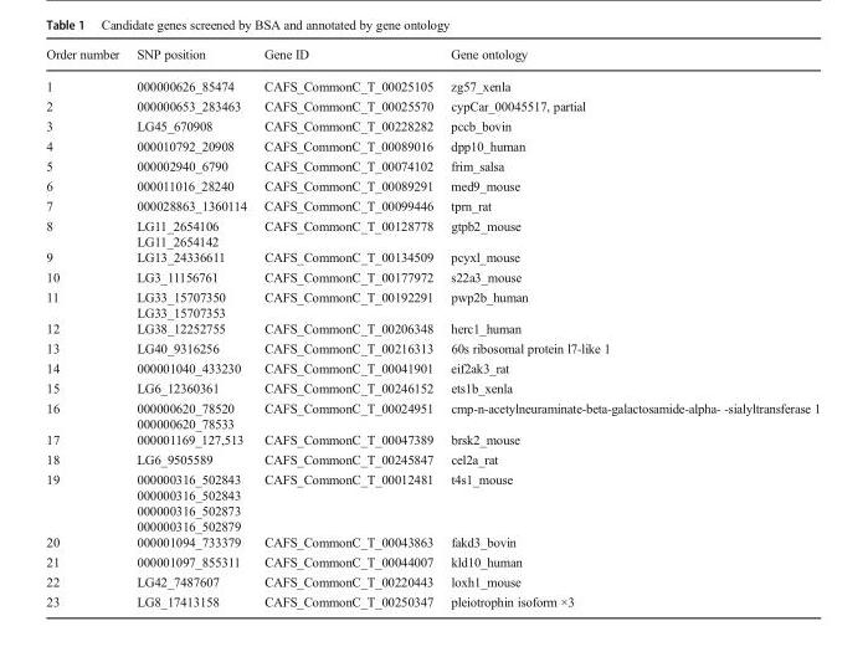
<table><thead><tr><td>Order number</td><td>SNP position</td><td>Gene ID</td><td>Gene ontology</td></tr></thead><tbody><tr><td>1</td><td>000000626_85474</td><td>CAFS_CommonC_T_00025105</td><td>zg57_xenla</td></tr><tr><td>2</td><td>000000653_283463</td><td>CAFS_CommonC_T_00025570</td><td>cypCar_00045517, partial</td></tr><tr><td>3</td><td>LG45_670908</td><td>CAFS_CommonC_T_00228282</td><td>pccb_bovin</td></tr><tr><td>4</td><td>000010792_20908</td><td>CAFS_CommonC_T_00089016</td><td>dpp10_human</td></tr><tr><td>5</td><td>000002940_6790</td><td>CAFS_CommonC_T_00074102</td><td>frim_salsa</td></tr><tr><td>6</td><td>000011016_28240</td><td>CAFS_CommonC_T_00089291</td><td>med9_mouse</td></tr><tr><td>7</td><td>000028863_1360114</td><td>CAFS_CommonC_T_00099446</td><td>tprn_rat</td></tr><tr><td>8</td><td>LG11_2654106 LG11_2654142</td><td>CAFS_CommonC_T_00128778</td><td>gtpb2_mouse</td></tr><tr><td>9</td><td>LG13_24336611</td><td>CAFS_CommonC_T_00134509</td><td>pcyxl_mouse</td></tr><tr><td>10</td><td>LG3_11156761</td><td>CAFS_CommonC_T_00177972</td><td>s22a3_mouse</td></tr><tr><td>11</td><td>LG33_15707350 LG33_15707353</td><td>CAFS_CommonC_T_00192291</td><td>pwp2b_human</td></tr><tr><td>12</td><td>LG38_12252755</td><td>CAFS_CommonC_T_00206348</td><td>herc1_human</td></tr><tr><td>13</td><td>LG40_9316256</td><td>CAFS_CommonC_T_00216313</td><td>60s ribosomal protein l7-like 1</td></tr><tr><td>14</td><td>000001040_433230</td><td>CAFS_CommonC_T_00041901</td><td>eif2ak3_rat</td></tr><tr><td>15</td><td>LG6_12360361</td><td>CAFS_CommonC_T_00246152</td><td>ets1b_xenla</td></tr><tr><td>16</td><td>000000620_78520 000000620_78533</td><td>CAFS_CommonC_T_00024951</td><td>cmp-n-acetylneuraminate-beta-galactosamide-alpha- -sialyltransferase 1</td></tr><tr><td>17</td><td>000001169_127,513</td><td>CAFS_CommonC_T_00047389</td><td>brsk2_mouse</td></tr><tr><td>18</td><td>LG6_9505589</td><td>CAFS_CommonC_T_00245847</td><td>cel2a_rat</td></tr><tr><td>19</td><td>000000316_502843 000000316_502843 000000316_502873 000000316_502879</td><td>CAFS_CommonC_T_00012481</td><td>t4s1_mouse</td></tr><tr><td>20</td><td>000001094_733379</td><td>CAFS_CommonC_T_00043863</td><td>fakd3_bovin</td></tr><tr><td>21</td><td>000001097_855311</td><td>CAFS_CommonC_T_00044007</td><td>kld10_human</td></tr><tr><td>22</td><td>LG42_7487607</td><td>CAFS_CommonC_T_00220443</td><td>loxh1_mouse</td></tr><tr><td>23</td><td>LG8_17413158</td><td>CAFS_CommonC_T_00250347</td><td>pleiotrophin isoform ×3</td></tr></tbody></table>